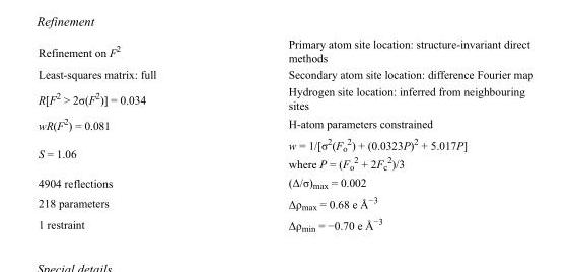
<table><tbody><tr><td>Refinement on F<sup>2</sup></td><td>Primary atom site location: structure-invariant direct methods</td></tr><tr><td>Least-squares matrix: full</td><td>Secondary atom site location: difference Fourier map</td></tr><tr><td>R[F<sup>2</sup> &gt; 2σ(F<sup>2</sup>)] = 0.034</td><td>Hydrogen site location: inferred from neighbouring sites</td></tr><tr><td>wR(F<sup>2</sup>) = 0.081</td><td>H-atom parameters constrained</td></tr><tr><td>S = 1.06</td><td>w = 1/[σ<sup>2</sup>(F<sub>o</sub> <sup>2</sup>) + (0.0323P)<sup>2</sup> + 5.017P] where P = (F<sub>o</sub> <sup>2</sup> + 2F<sub>c</sub> <sup>2</sup>)/3</td></tr><tr><td>4904 reflections</td><td>(Δ/σ)<sub>max</sub> = 0.002</td></tr><tr><td>218 parameters</td><td>Δρ<sub>max</sub> = 0.68 e Å<sup>−3</sup></td></tr><tr><td>1 restraint</td><td>Δρ<sub>min</sub> = −0.70 e Å<sup>−3</sup></td></tr></tbody></table>